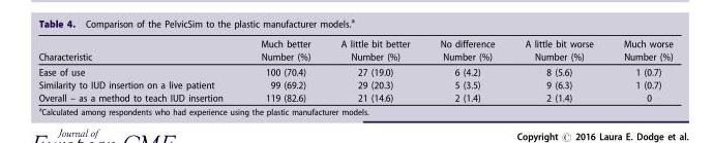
<table><thead><tr><td>Characteristic</td><td>Much better Number (%)</td><td>A little bit better Number (%)</td><td>No difference Number (%)</td><td>A little bit worse Number (%)</td><td>Much worse Number (%)</td></tr></thead><tbody><tr><td>Ease of use</td><td>100 (70.4)</td><td>27 (19.0)</td><td>6 (4.2)</td><td>8 (5.6)</td><td>1 (0.7)</td></tr><tr><td>Similarity to IUD insertion on a live patient</td><td>99 (69.2)</td><td>29 (20.3)</td><td>5 (3.5)</td><td>9 (6.3)</td><td>1 (0.7)</td></tr><tr><td>Overall – as a method to teach IUD insertion</td><td>119 (82.6)</td><td>21 (14.6)</td><td>2 (1.4)</td><td>2 (1.4)</td><td>0</td></tr></tbody></table>